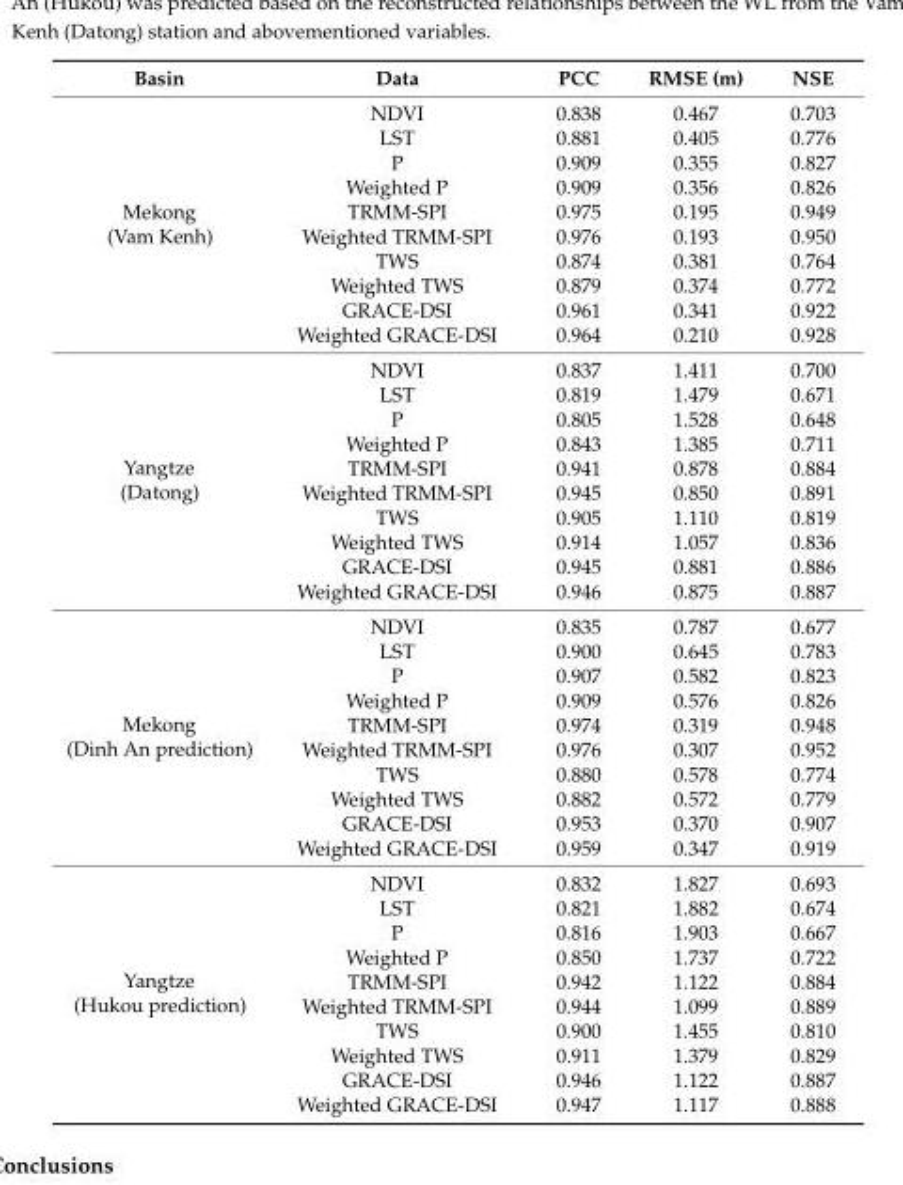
<table><thead><tr><td>Basin</td><td>Data</td><td>PCC</td><td>RMSE (m)</td><td>NSE</td></tr></thead><tbody><tr><td rowspan="10">Mekong (Vam Kenh)</td><td>NDVI</td><td>0.838</td><td>0.467</td><td>0.703</td></tr><tr><td>LST</td><td>0.881</td><td>0.405</td><td>0.776</td></tr><tr><td>P</td><td>0.909</td><td>0.355</td><td>0.827</td></tr><tr><td>Weighted P</td><td>0.909</td><td>0.356</td><td>0.826</td></tr><tr><td>TRMM-SPI</td><td>0.975</td><td>0.195</td><td>0.949</td></tr><tr><td>Weighted TRMM-SPI</td><td>0.976</td><td>0.193</td><td>0.950</td></tr><tr><td>TWS</td><td>0.874</td><td>0.381</td><td>0.764</td></tr><tr><td>Weighted TWS</td><td>0.879</td><td>0.374</td><td>0.772</td></tr><tr><td>GRACE-DSI</td><td>0.961</td><td>0.341</td><td>0.922</td></tr><tr><td>Weighted GRACE-DSI</td><td>0.964</td><td>0.210</td><td>0.928</td></tr><tr><td rowspan="10">Yangtze (Datong)</td><td>NDVI</td><td>0.837</td><td>1.411</td><td>0.700</td></tr><tr><td>LST</td><td>0.819</td><td>1.479</td><td>0.671</td></tr><tr><td>P</td><td>0.805</td><td>1.528</td><td>0.648</td></tr><tr><td>Weighted P</td><td>0.843</td><td>1.385</td><td>0.711</td></tr><tr><td>TRMM-SPI</td><td>0.941</td><td>0.878</td><td>0.884</td></tr><tr><td>Weighted TRMM-SPI</td><td>0.945</td><td>0.850</td><td>0.891</td></tr><tr><td>TWS</td><td>0.905</td><td>1.110</td><td>0.819</td></tr><tr><td>Weighted TWS</td><td>0.914</td><td>1.057</td><td>0.836</td></tr><tr><td>GRACE-DSI</td><td>0.945</td><td>0.881</td><td>0.886</td></tr><tr><td>Weighted GRACE-DSI</td><td>0.946</td><td>0.875</td><td>0.887</td></tr><tr><td rowspan="10">Mekong (Dinh An prediction)</td><td>NDVI</td><td>0.835</td><td>0.787</td><td>0.677</td></tr><tr><td>LST</td><td>0.900</td><td>0.645</td><td>0.783</td></tr><tr><td>P</td><td>0.907</td><td>0.582</td><td>0.823</td></tr><tr><td>Weighted P</td><td>0.909</td><td>0.576</td><td>0.826</td></tr><tr><td>TRMM-SPI</td><td>0.974</td><td>0.319</td><td>0.948</td></tr><tr><td>Weighted TRMM-SPI</td><td>0.976</td><td>0.307</td><td>0.952</td></tr><tr><td>TWS</td><td>0.880</td><td>0.578</td><td>0.774</td></tr><tr><td>Weighted TWS</td><td>0.882</td><td>0.572</td><td>0.779</td></tr><tr><td>GRACE-DSI</td><td>0.953</td><td>0.370</td><td>0.907</td></tr><tr><td>Weighted GRACE-DSI</td><td>0.959</td><td>0.347</td><td>0.919</td></tr><tr><td rowspan="10">Yangtze (Hukou prediction)</td><td>NDVI</td><td>0.832</td><td>1.827</td><td>0.693</td></tr><tr><td>LST</td><td>0.821</td><td>1.882</td><td>0.674</td></tr><tr><td>P</td><td>0.816</td><td>1.903</td><td>0.667</td></tr><tr><td>Weighted P</td><td>0.850</td><td>1.737</td><td>0.722</td></tr><tr><td>TRMM-SPI</td><td>0.942</td><td>1.122</td><td>0.884</td></tr><tr><td>Weighted TRMM-SPI</td><td>0.944</td><td>1.099</td><td>0.889</td></tr><tr><td>TWS</td><td>0.900</td><td>1.455</td><td>0.810</td></tr><tr><td>Weighted TWS</td><td>0.911</td><td>1.379</td><td>0.829</td></tr><tr><td>GRACE-DSI</td><td>0.946</td><td>1.122</td><td>0.887</td></tr><tr><td>Weighted GRACE-DSI</td><td>0.947</td><td>1.117</td><td>0.888</td></tr></tbody></table>